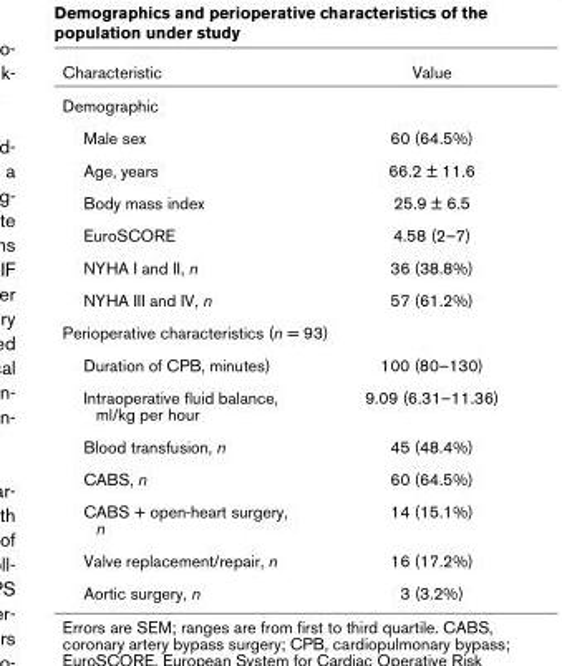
<table><thead><tr><td>Characteristic</td><td>Value</td></tr></thead><tbody><tr><td colspan="2">Demographic</td></tr><tr><td>Male sex</td><td>60 (64.5%)</td></tr><tr><td>Age, years</td><td>66.2 ± 11.6</td></tr><tr><td>Body mass index</td><td>25.9 ± 6.5</td></tr><tr><td>EuroSCORE</td><td>4.58 (2–7)</td></tr><tr><td>NYHA I and II, n</td><td>36 (38.8%)</td></tr><tr><td>NYHA III and IV, n</td><td>57 (61.2%)</td></tr><tr><td colspan="2">Perioperative characteristics (n = 93)</td></tr><tr><td>Duration of CPB, minutes)</td><td>100 (80–130)</td></tr><tr><td>Intraoperative fluid balance, ml/kg per hour</td><td>9.09 (6.31–11.36)</td></tr><tr><td>Blood transfusion, n</td><td>45 (48.4%)</td></tr><tr><td>CABS, n</td><td>60 (64.5%)</td></tr><tr><td>CABS + open-heart surgery, n</td><td>14 (15.1%)</td></tr><tr><td>Valve replacement/repair, n</td><td>16 (17.2%)</td></tr><tr><td>Aortic surgery, n</td><td>3 (3.2%)</td></tr></tbody></table>